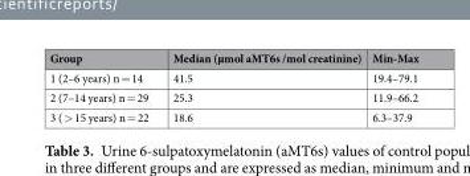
<table><thead><tr><td>Group</td><td>Median (µmol aMT6s /mol creatinine)</td><td>Min-Max</td></tr></thead><tbody><tr><td>1 (2–6 years) n = 14</td><td>41.5</td><td>19.4–79.1</td></tr><tr><td>2 (7–14 years) n = 29</td><td>25.3</td><td>11.9–66.2</td></tr><tr><td>3 ( &gt; 15 years) n = 22</td><td>18.6</td><td>6.3–37.9</td></tr></tbody></table>